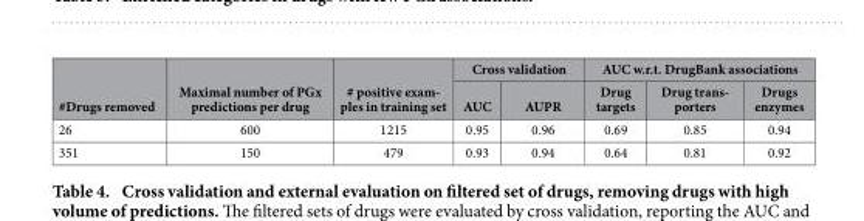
<table><thead><tr><td rowspan="2">#Drugs removed</td><td rowspan="2">Maximal number of PGx predictions per drug</td><td rowspan="2"># positive exam- ples in training set</td><td colspan="2">Cross validation</td><td colspan="3">AUC w.r.t. DrugBank associations</td></tr><tr><td>AUC</td><td>AUPR</td><td>Drug targets</td><td>Drug trans- porters</td><td>Drugs enzymes</td></tr></thead><tbody><tr><td>26</td><td>600</td><td>1215</td><td>0.95</td><td>0.96</td><td>0.69</td><td>0.85</td><td>0.94</td></tr><tr><td>351</td><td>150</td><td>479</td><td>0.93</td><td>0.94</td><td>0.64</td><td>0.81</td><td>0.92</td></tr></tbody></table>